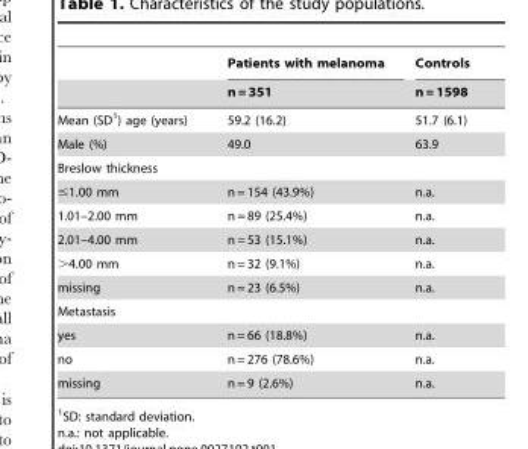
<table><thead><tr><td rowspan="2"></td><td rowspan="2">Patients with melanoma n = 351</td><td rowspan="2">Controls n = 1598</td></tr><tr></tr></thead><tbody><tr><td>Mean (SD<sup>1</sup>) age (years)</td><td>59.2 (16.2)</td><td>51.7 (6.1)</td></tr><tr><td>Male (%)</td><td>49.0</td><td>63.9</td></tr><tr><td colspan="3">Breslow thickness</td></tr><tr><td>≤1.00 mm</td><td>n = 154 (43.9%)</td><td>n.a.</td></tr><tr><td>1.01–2.00 mm</td><td>n = 89 (25.4%)</td><td>n.a.</td></tr><tr><td>2.01–4.00 mm</td><td>n = 53 (15.1%)</td><td>n.a.</td></tr><tr><td>&gt;4.00 mm</td><td>n = 32 (9.1%)</td><td>n.a.</td></tr><tr><td>missing</td><td>n = 23 (6.5%)</td><td>n.a.</td></tr><tr><td colspan="3">Metastasis</td></tr><tr><td>yes</td><td>n = 66 (18.8%)</td><td>n.a.</td></tr><tr><td>no</td><td>n = 276 (78.6%)</td><td>n.a.</td></tr><tr><td>missing</td><td>n = 9 (2.6%)</td><td>n.a.</td></tr></tbody></table>